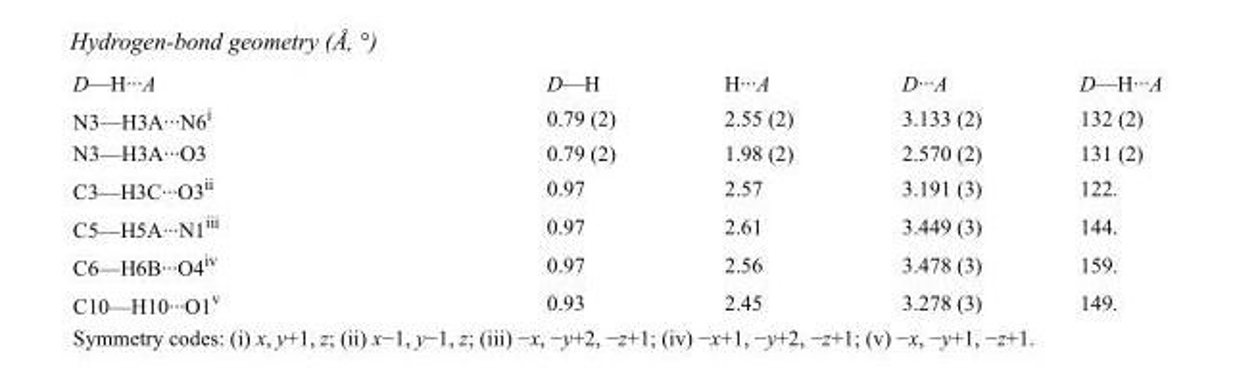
<table><tbody><tr><td>D—H···A</td><td>D—H</td><td>H···A</td><td>D···A</td><td>D—H···A</td></tr><tr><td>N3—H3A···N6<sup>i</sup></td><td>0.79 (2)</td><td>2.55 (2)</td><td>3.133 (2)</td><td>132 (2)</td></tr><tr><td>N3—H3A···O3</td><td>0.79 (2)</td><td>1.98 (2)</td><td>2.570 (2)</td><td>131 (2)</td></tr><tr><td>C3—H3C···O3<sup>ii</sup></td><td>0.97</td><td>2.57</td><td>3.191 (3)</td><td>122.</td></tr><tr><td>C5—H5A···N1<sup>iii</sup></td><td>0.97</td><td>2.61</td><td>3.449 (3)</td><td>144.</td></tr><tr><td>C6—H6B···O4<sup>iv</sup></td><td>0.97</td><td>2.56</td><td>3.478 (3)</td><td>159.</td></tr><tr><td>C10—H10···O1<sup>v</sup></td><td>0.93</td><td>2.45</td><td>3.278 (3)</td><td>149.</td></tr></tbody></table>